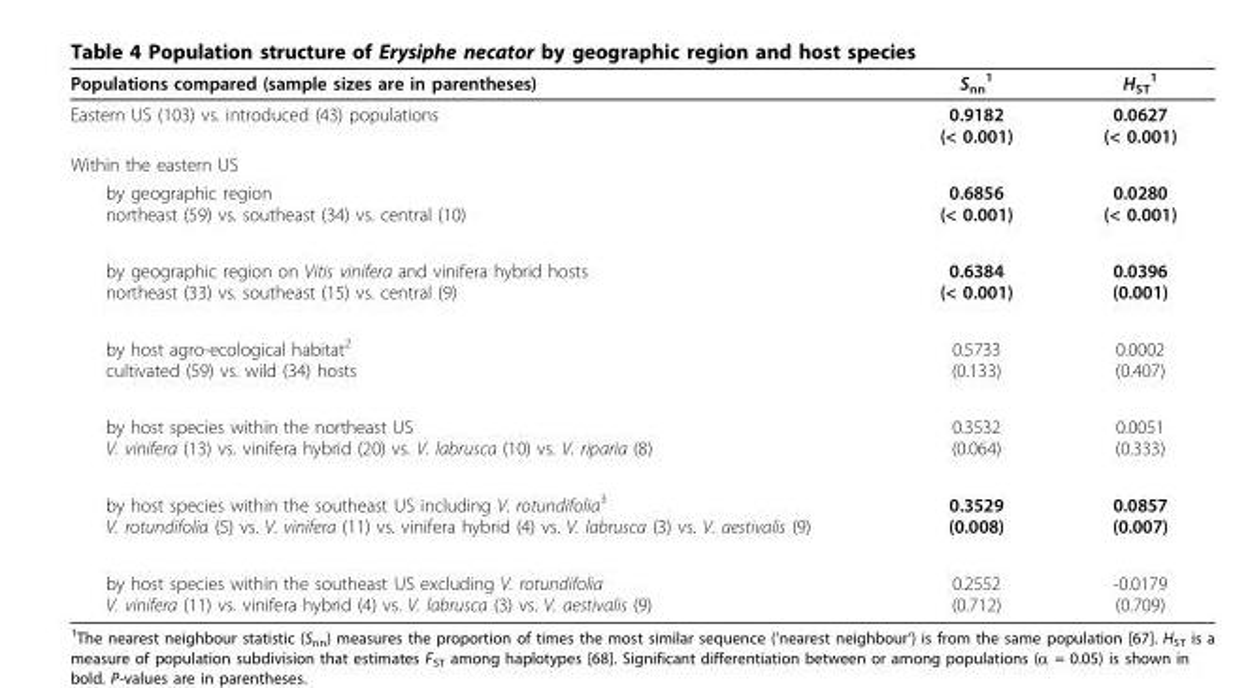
<table><thead><tr><td>Populations compared (sample sizes are in parentheses)</td><td>S<sub>nn</sub> <sup>1</sup></td><td>H<sub>ST</sub> <sup>1</sup></td></tr></thead><tbody><tr><td>Eastern US (103) vs. introduced (43) populations</td><td>0.9182 (&lt; 0.001)</td><td>0.0627 (&lt; 0.001)</td></tr><tr><td colspan="3">Within the eastern US</td></tr><tr><td>by geographic region northeast (59) vs. southeast (34) vs. central (10)</td><td>0.6856 (&lt; 0.001)</td><td>0.0280 (&lt; 0.001)</td></tr><tr><td>by geographic region on Vitis vinifera and vinifera hybrid hosts northeast (33) vs. southeast (15) vs. central (9)</td><td>0.6384 (&lt; 0.001)</td><td>0.0396 (0.001)</td></tr><tr><td>by host agro-ecological habitat<sup>2</sup> cultivated (59) vs. wild (34) hosts</td><td>0.5733 (0.133)</td><td>0.0002 (0.407)</td></tr><tr><td>by host species within the northeast US V. vinifera (13) vs. vinifera hybrid (20) vs. V. labrusca (10) vs. V. riparia (8)</td><td>0.3532 (0.064)</td><td>0.0051 (0.333)</td></tr><tr><td>by host species within the southeast US including V. rotundifolia<sup>3</sup> V. rotundifolia (5) vs. V. vinifera (11) vs. vinifera hybrid (4) vs. V. labrusca (3) vs. V. aestivalis (9)</td><td>0.3529 (0.008)</td><td>0.0857 (0.007)</td></tr><tr><td>by host species within the southeast US excluding V. rotundifolia V. vinifera (11) vs. vinifera hybrid (4) vs. V. labrusca (3) vs. V. aestivalis (9)</td><td>0.2552 (0.712)</td><td>-0.0179 (0.709)</td></tr></tbody></table>